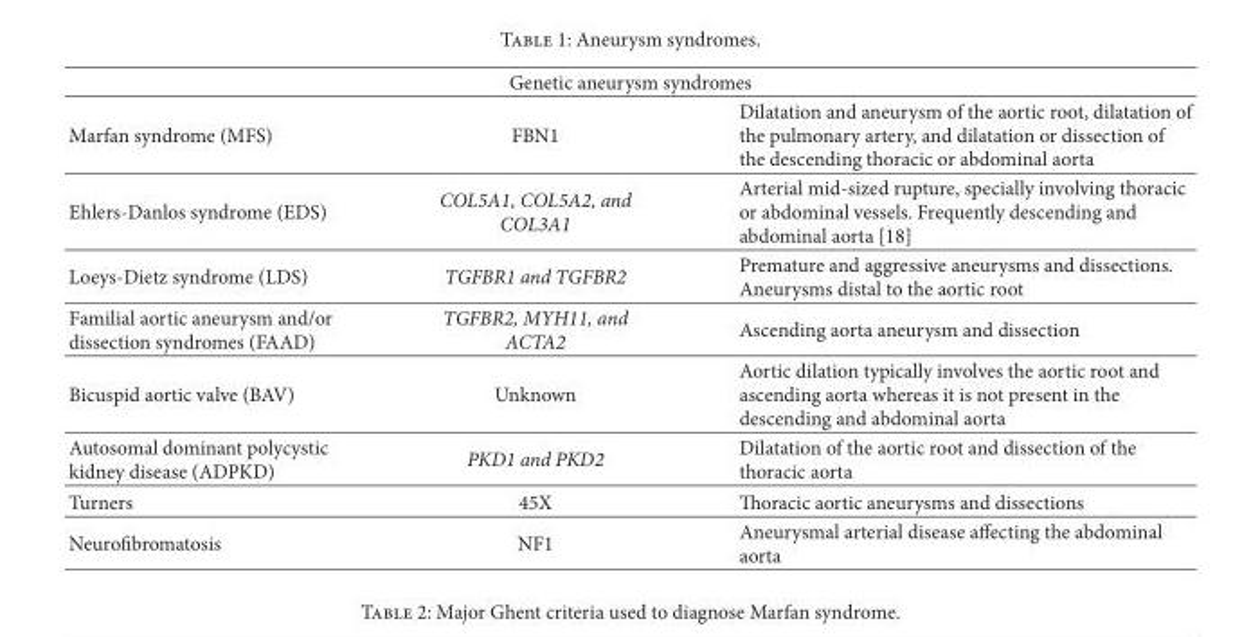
<table><thead><tr><td colspan="3">Genetic aneurysm syndromes</td></tr><tr><td>Marfan syndrome (MFS)</td><td>FBN1</td><td>Dilatation and aneurysm of the aortic root, dilatation of the pulmonary artery, and dilatation or dissection of the descending thoracic or abdominal aorta</td></tr></thead><tbody><tr><td>Ehlers-Danlos syndrome (EDS)</td><td>COL5A1, COL5A2, and COL3A1</td><td>Arterial mid-sized rupture, specially involving thoracic or abdominal vessels. Frequently descending and abdominal aorta [18]</td></tr><tr><td>Loeys-Dietz syndrome (LDS)</td><td>TGFBR1 and TGFBR2</td><td>Premature and aggressive aneurysms and dissections. Aneurysms distal to the aortic root</td></tr><tr><td>Familial aortic aneurysm and/or dissection syndromes (FAAD)</td><td>TGFBR2, MYH11, and ACTA2</td><td>Ascending aorta aneurysm and dissection</td></tr><tr><td>Bicuspid aortic valve (BAV)</td><td>Unknown</td><td>Aortic dilation typically involves the aortic root and ascending aorta whereas it is not present in the descending and abdominal aorta</td></tr><tr><td>Autosomal dominant polycystic kidney disease (ADPKD)</td><td>PKD1 and PKD2</td><td>Dilatation of the aortic root and dissection of the thoracic aorta</td></tr><tr><td>Turners</td><td>45X</td><td>oracic aortic aneurysms and dissections</td></tr><tr><td>Neuro�bromatosis</td><td>NF1</td><td>Aneurysmal arterial disease affecting the abdominal aorta</td></tr></tbody></table>